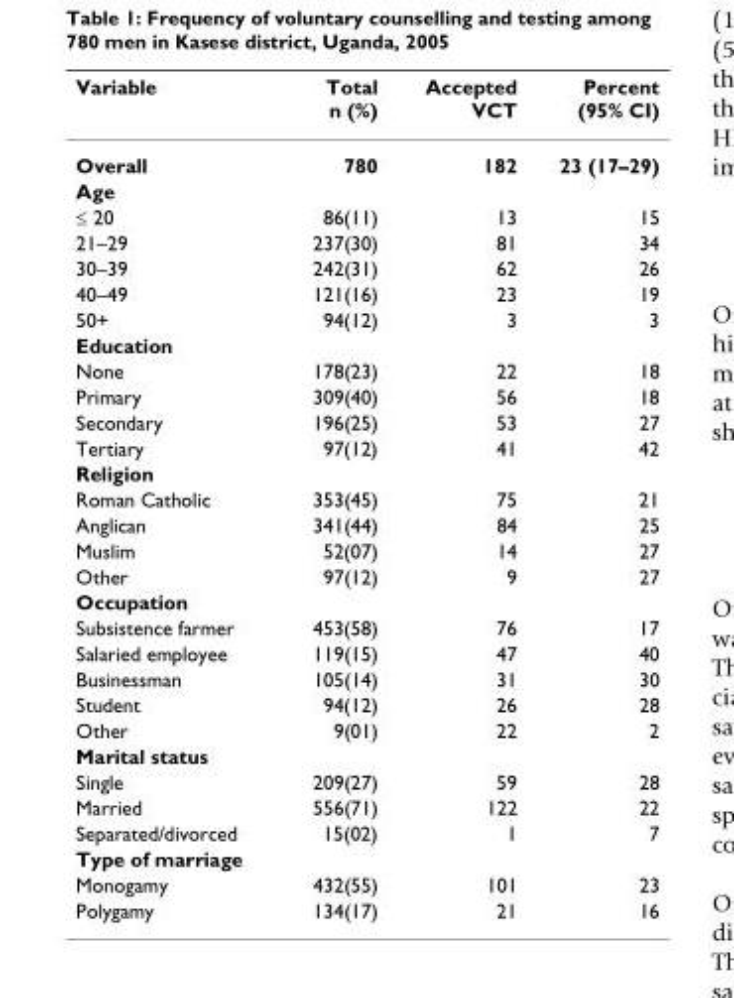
<table><thead><tr><td>Variable</td><td>Total n (%)</td><td>Accepted VCT</td><td>Percent (95% CI)</td></tr></thead><tbody><tr><td>Overall</td><td>780</td><td>182</td><td>23 (17–29)</td></tr><tr><td colspan="4">Age</td></tr><tr><td>≤ 20</td><td>86(11)</td><td>13</td><td>15</td></tr><tr><td>21–29</td><td>237(30)</td><td>81</td><td>34</td></tr><tr><td>30–39</td><td>242(31)</td><td>62</td><td>26</td></tr><tr><td>40–49</td><td>121(16)</td><td>23</td><td>19</td></tr><tr><td>50+</td><td>94(12)</td><td>3</td><td>3</td></tr><tr><td colspan="4">Education</td></tr><tr><td>None</td><td>178(23)</td><td>22</td><td>18</td></tr><tr><td>Primary</td><td>309(40)</td><td>56</td><td>18</td></tr><tr><td>Secondary</td><td>196(25)</td><td>53</td><td>27</td></tr><tr><td>Tertiary</td><td>97(12)</td><td>41</td><td>42</td></tr><tr><td colspan="4">Religion</td></tr><tr><td>Roman Catholic</td><td>353(45)</td><td>75</td><td>21</td></tr><tr><td>Anglican</td><td>341(44)</td><td>84</td><td>25</td></tr><tr><td>Muslim</td><td>52(07)</td><td>14</td><td>27</td></tr><tr><td>Other</td><td>97(12)</td><td>9</td><td>27</td></tr><tr><td colspan="4">Occupation</td></tr><tr><td>Subsistence farmer</td><td>453(58)</td><td>76</td><td>17</td></tr><tr><td>Salaried employee</td><td>119(15)</td><td>47</td><td>40</td></tr><tr><td>Businessman</td><td>105(14)</td><td>31</td><td>30</td></tr><tr><td>Student</td><td>94(12)</td><td>26</td><td>28</td></tr><tr><td>Other</td><td>9(01)</td><td>22</td><td>2</td></tr><tr><td colspan="4">Marital status</td></tr><tr><td>Single</td><td>209(27)</td><td>59</td><td>28</td></tr><tr><td>Married</td><td>556(71)</td><td>122</td><td>22</td></tr><tr><td>Separated/divorced</td><td>15(02)</td><td>1</td><td>7</td></tr><tr><td colspan="4">Type of marriage</td></tr><tr><td>Monogamy</td><td>432(55)</td><td>101</td><td>23</td></tr><tr><td>Polygamy</td><td>134(17)</td><td>21</td><td>16</td></tr></tbody></table>